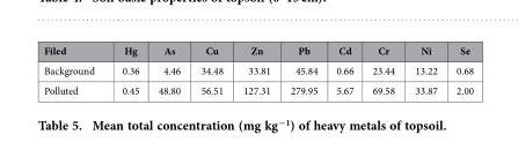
<table><thead><tr><td>Filed</td><td>Hg</td><td>As</td><td>Cu</td><td>Zn</td><td>Pb</td><td>Cd</td><td>Cr</td><td>Ni</td><td>Se</td></tr></thead><tbody><tr><td>Background</td><td>0.36</td><td>4.46</td><td>34.48</td><td>33.81</td><td>45.84</td><td>0.66</td><td>23.44</td><td>13.22</td><td>0.68</td></tr><tr><td>Polluted</td><td>0.45</td><td>48.80</td><td>56.51</td><td>127.31</td><td>279.95</td><td>5.67</td><td>69.58</td><td>33.87</td><td>2.00</td></tr></tbody></table>